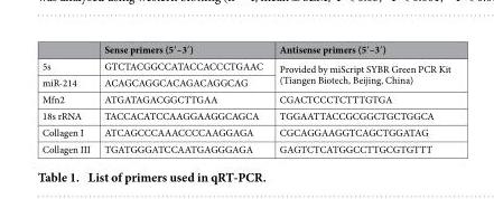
<table><thead><tr><td></td><td>Sense primers (5′–3′)</td><td>Antisense primers (5′–3′)</td></tr></thead><tbody><tr><td>5s</td><td>GTCTACGGCCATACCACCCTGAAC</td><td rowspan="2">Provided by miScript SYBR Green PCR Kit (Tiangen Biotech, Beijing, China)</td></tr><tr><td>miR-214</td><td>ACAGCAGGCACAGACAGGCAG</td></tr><tr><td>Mfn2</td><td>ATGATAGACGGCTTGAA</td><td>CGACTCCCTCTTTGTGA</td></tr><tr><td>18s rRNA</td><td>TACCACATCCAAGGAAGGCAGCA</td><td>TGGAATTACCGCGGCTGCTGGCA</td></tr><tr><td>Collagen I</td><td>ATCAGCCCAAACCCCAAGGAGA</td><td>CGCAGGAAGGTCAGCTGGATAG</td></tr><tr><td>Collagen III</td><td>TGATGGGATCCAATGAGGGAGA</td><td>GAGTCTCATGGCCTTGCGTGTTT</td></tr></tbody></table>